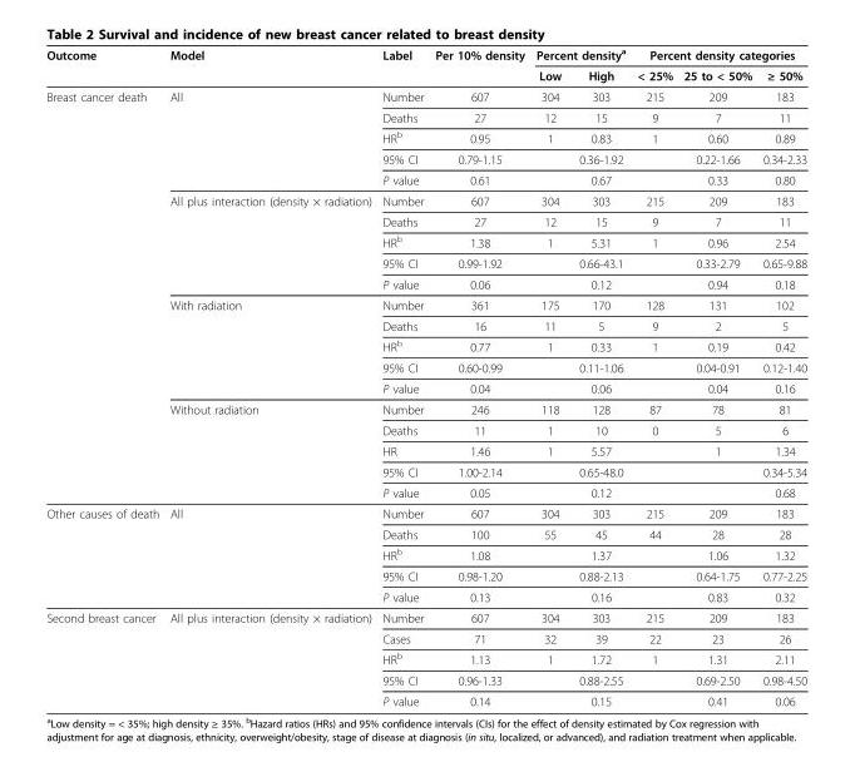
<table><thead><tr><td rowspan="2">Outcome</td><td rowspan="2">Model</td><td rowspan="2">Label</td><td rowspan="2">Per 10% density</td><td colspan="2">Percent density<sup>a</sup></td><td colspan="3">Percent density categories</td></tr><tr><td>Low</td><td>High</td><td>&lt; 25%</td><td>25 to &lt; 50%</td><td>≥ 50%</td></tr></thead><tbody><tr><td rowspan="20">Breast cancer death</td><td>All</td><td>Number</td><td>607</td><td>304</td><td>303</td><td>215</td><td>209</td><td>183</td></tr><tr><td></td><td>Deaths</td><td>27</td><td>12</td><td>15</td><td>9</td><td>7</td><td>11</td></tr><tr><td></td><td>HR<sup>b</sup></td><td>0.95</td><td>1</td><td>0.83</td><td>1</td><td>0.60</td><td>0.89</td></tr><tr><td></td><td>95% CI</td><td>0.79-1.15</td><td></td><td>0.36-1.92</td><td></td><td>0.22-1.66</td><td>0.34-2.33</td></tr><tr><td></td><td>P value</td><td>0.61</td><td></td><td>0.67</td><td></td><td>0.33</td><td>0.80</td></tr><tr><td>All plus interaction (density × radiation)</td><td>Number</td><td>607</td><td>304</td><td>303</td><td>215</td><td>209</td><td>183</td></tr><tr><td></td><td>Deaths</td><td>27</td><td>12</td><td>15</td><td>9</td><td>7</td><td>11</td></tr><tr><td></td><td>HR<sup>b</sup></td><td>1.38</td><td>1</td><td>5.31</td><td>1</td><td>0.96</td><td>2.54</td></tr><tr><td></td><td>95% CI</td><td>0.99-1.92</td><td></td><td>0.66-43.1</td><td></td><td>0.33-2.79</td><td>0.65-9.88</td></tr><tr><td></td><td>P value</td><td>0.06</td><td></td><td>0.12</td><td></td><td>0.94</td><td>0.18</td></tr><tr><td>With radiation</td><td>Number</td><td>361</td><td>175</td><td>170</td><td>128</td><td>131</td><td>102</td></tr><tr><td></td><td>Deaths</td><td>16</td><td>11</td><td>5</td><td>9</td><td>2</td><td>5</td></tr><tr><td></td><td>HR<sup>b</sup></td><td>0.77</td><td>1</td><td>0.33</td><td>1</td><td>0.19</td><td>0.42</td></tr><tr><td></td><td>95% CI</td><td>0.60-0.99</td><td></td><td>0.11-1.06</td><td></td><td>0.04-0.91</td><td>0.12-1.40</td></tr><tr><td></td><td>P value</td><td>0.04</td><td></td><td>0.06</td><td></td><td>0.04</td><td>0.16</td></tr><tr><td>Without radiation</td><td>Number</td><td>246</td><td>118</td><td>128</td><td>87</td><td>78</td><td>81</td></tr><tr><td></td><td>Deaths</td><td>11</td><td>1</td><td>10</td><td>0</td><td>5</td><td>6</td></tr><tr><td></td><td>HR</td><td>1.46</td><td>1</td><td>5.57</td><td></td><td>1</td><td>1.34</td></tr><tr><td></td><td>95% CI</td><td>1.00-2.14</td><td></td><td>0.65-48.0</td><td></td><td></td><td>0.34-5.34</td></tr><tr><td></td><td>P value</td><td>0.05</td><td></td><td>0.12</td><td></td><td></td><td>0.68</td></tr><tr><td rowspan="5">Other causes of death</td><td>All</td><td>Number</td><td>607</td><td>304</td><td>303</td><td>215</td><td>209</td><td>183</td></tr><tr><td></td><td>Deaths</td><td>100</td><td>55</td><td>45</td><td>44</td><td>28</td><td>28</td></tr><tr><td></td><td>HR<sup>b</sup></td><td>1.08</td><td></td><td>1.37</td><td></td><td>1.06</td><td>1.32</td></tr><tr><td></td><td>95% CI</td><td>0.98-1.20</td><td></td><td>0.88-2.13</td><td></td><td>0.64-1.75</td><td>0.77-2.25</td></tr><tr><td></td><td>P value</td><td>0.13</td><td></td><td>0.16</td><td></td><td>0.83</td><td>0.32</td></tr><tr><td rowspan="5">Second breast cancer</td><td>All plus interaction (density × radiation)</td><td>Number</td><td>607</td><td>304</td><td>303</td><td>215</td><td>209</td><td>183</td></tr><tr><td></td><td>Cases</td><td>71</td><td>32</td><td>39</td><td>22</td><td>23</td><td>26</td></tr><tr><td></td><td>HR<sup>b</sup></td><td>1.13</td><td>1</td><td>1.72</td><td>1</td><td>1.31</td><td>2.11</td></tr><tr><td></td><td>95% CI</td><td>0.96-1.33</td><td></td><td>0.88-2.55</td><td></td><td>0.69-2.50</td><td>0.98-4.50</td></tr><tr><td></td><td>P value</td><td>0.14</td><td></td><td>0.15</td><td></td><td>0.41</td><td>0.06</td></tr></tbody></table>